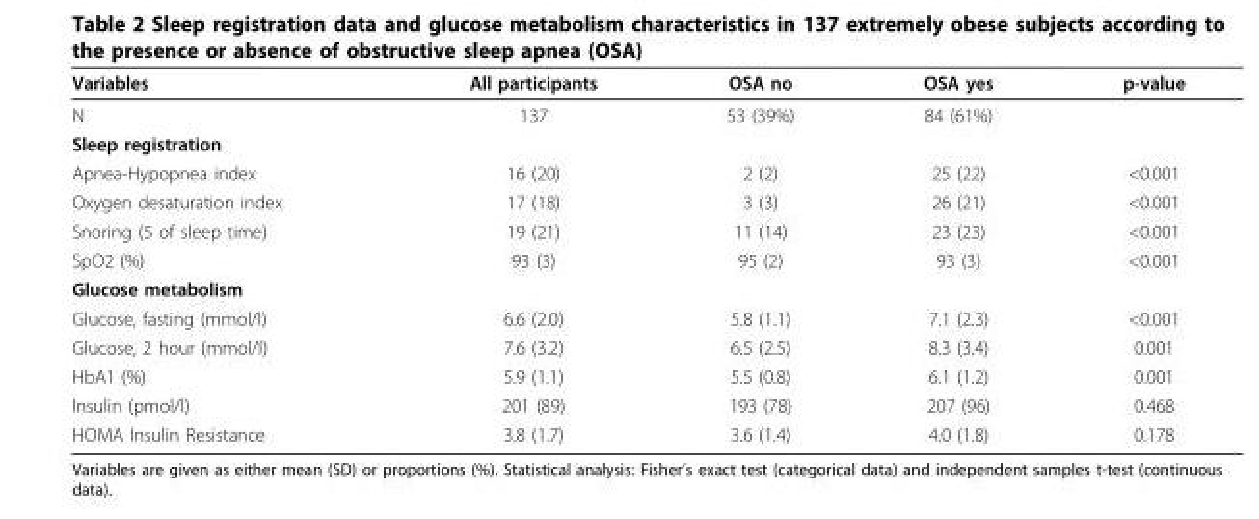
<table><thead><tr><td>Variables</td><td>All participants</td><td>OSA no</td><td>OSA yes</td><td>p-value</td></tr></thead><tbody><tr><td>N</td><td>137</td><td>53 (39%)</td><td>84 (61%)</td><td></td></tr><tr><td colspan="5">Sleep registration</td></tr><tr><td>Apnea-Hypopnea index</td><td>16 (20)</td><td>2 (2)</td><td>25 (22)</td><td>&lt;0.001</td></tr><tr><td>Oxygen desaturation index</td><td>17 (18)</td><td>3 (3)</td><td>26 (21)</td><td>&lt;0.001</td></tr><tr><td>Snoring (5 of sleep time)</td><td>19 (21)</td><td>11 (14)</td><td>23 (23)</td><td>&lt;0.001</td></tr><tr><td>SpO2 (%)</td><td>93 (3)</td><td>95 (2)</td><td>93 (3)</td><td>&lt;0.001</td></tr><tr><td colspan="5">Glucose metabolism</td></tr><tr><td>Glucose, fasting (mmol/l)</td><td>6.6 (2.0)</td><td>5.8 (1.1)</td><td>7.1 (2.3)</td><td>&lt;0.001</td></tr><tr><td>Glucose, 2 hour (mmol/l)</td><td>7.6 (3.2)</td><td>6.5 (2.5)</td><td>8.3 (3.4)</td><td>0.001</td></tr><tr><td>HbA1 (%)</td><td>5.9 (1.1)</td><td>5.5 (0.8)</td><td>6.1 (1.2)</td><td>0.001</td></tr><tr><td>Insulin (pmol/l)</td><td>201 (89)</td><td>193 (78)</td><td>207 (96)</td><td>0.468</td></tr><tr><td>HOMA Insulin Resistance</td><td>3.8 (1.7)</td><td>3.6 (1.4)</td><td>4.0 (1.8)</td><td>0.178</td></tr></tbody></table>